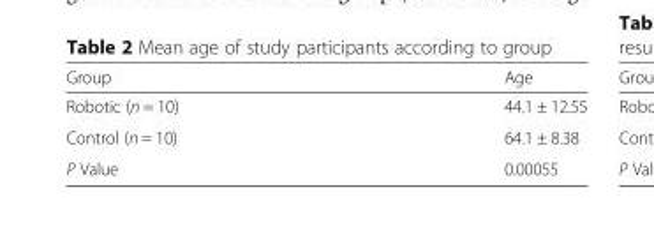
<table><thead><tr><td>Group</td><td>Age</td></tr></thead><tbody><tr><td>Robotic (n = 10)</td><td>44.1 ± 12.55</td></tr><tr><td>Control (n = 10)</td><td>64.1 ± 8.38</td></tr><tr><td>P Value</td><td>0.00055</td></tr></tbody></table>